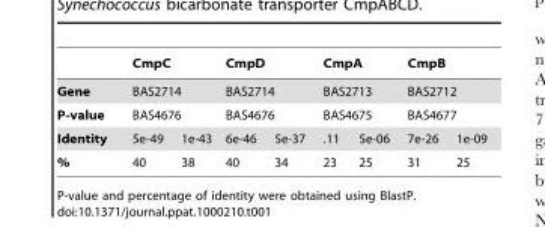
<table><thead><tr><td rowspan="4">Gene P-value Identity</td><td rowspan="3" colspan="2">CmpC BAS2714 BAS4676</td><td rowspan="3" colspan="2">CmpD BAS2714 BAS4676</td><td rowspan="3" colspan="2">CmpA BAS2713 BAS4675</td><td rowspan="3" colspan="2">CmpB BAS2712 BAS4677</td></tr><tr></tr><tr></tr><tr><td>5e-49</td><td>1e-43</td><td>6e-46</td><td>5e-37</td><td>.11</td><td>5e-06</td><td>7e-26</td><td>1e-09</td></tr></thead><tbody><tr><td>%</td><td>40</td><td>38</td><td>40</td><td>34</td><td>23</td><td>25</td><td>31</td><td>25</td></tr></tbody></table>